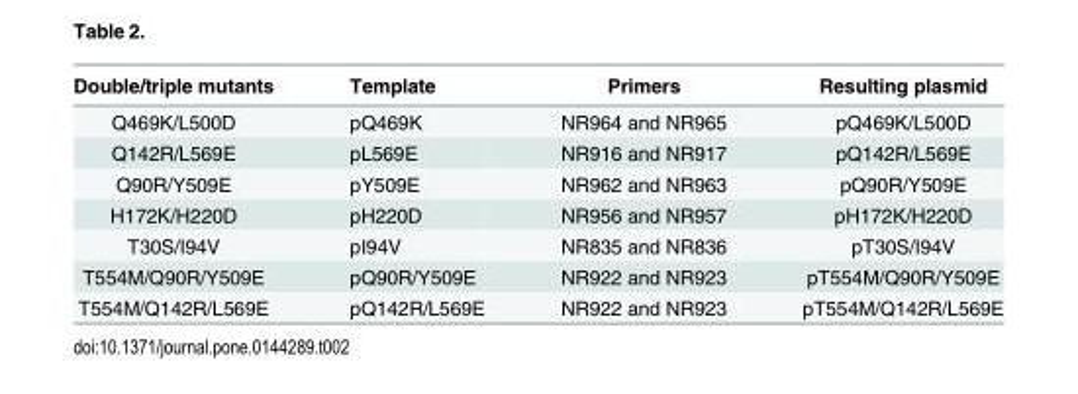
<table><thead><tr><td>Double/triple mutants</td><td>Template</td><td>Primers</td><td>Resulting plasmid</td></tr></thead><tbody><tr><td>Q469K/L500D</td><td>pQ469K</td><td>NR964 and NR965</td><td>pQ469K/L500D</td></tr><tr><td>Q142R/L569E</td><td>pL569E</td><td>NR916 and NR917</td><td>pQ142R/L569E</td></tr><tr><td>Q90R/Y509E</td><td>pY509E</td><td>NR962 and NR963</td><td>pQ90R/Y509E</td></tr><tr><td>H172K/H220D</td><td>pH220D</td><td>NR956 and NR957</td><td>pH172K/H220D</td></tr><tr><td>T30S/I94V</td><td>pI94V</td><td>NR835 and NR836</td><td>pT30S/I94V</td></tr><tr><td>T554M/Q90R/Y509E</td><td>pQ90R/Y509E</td><td>NR922 and NR923</td><td>pT554M/Q90R/Y509E</td></tr><tr><td>T554M/Q142R/L569E</td><td>pQ142R/L569E</td><td>NR922 and NR923</td><td>pT554M/Q142R/L569E</td></tr></tbody></table>